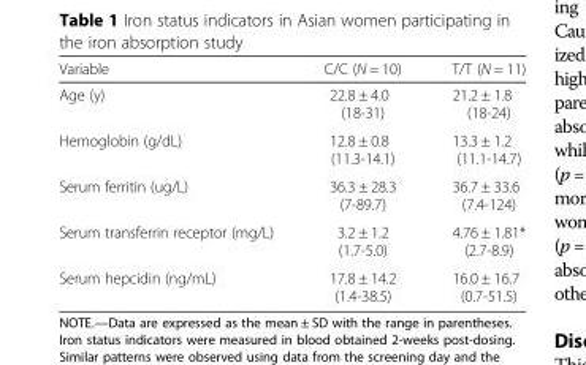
<table><thead><tr><td>Variable</td><td>C/C (N = 10)</td><td>T/T (N = 11)</td></tr></thead><tbody><tr><td>Age (y)</td><td>22.8 ± 4.0 (18-31)</td><td>21.2 ± 1.8 (18-24)</td></tr><tr><td>Hemoglobin (g/dL)</td><td>12.8 ± 0.8 (11.3-14.1)</td><td>13.3 ± 1.2 (11.1-14.7)</td></tr><tr><td>Serum ferritin (ug/L)</td><td>36.3 ± 28.3 (7-89.7)</td><td>36.7 ± 33.6 (7.4-124)</td></tr><tr><td>Serum transferrin receptor (mg/L)</td><td>3.2 ± 1.2 (1.7-5.0)</td><td>4.76 ± 1.81* (2.7-8.9)</td></tr><tr><td>Serum hepcidin (ng/mL)</td><td>17.8 ± 14.2 (1.4-38.5)</td><td>16.0 ± 16.7 (0.7-51.5)</td></tr></tbody></table>